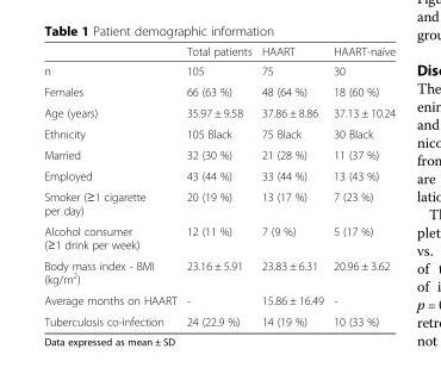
<table><thead><tr><td></td><td>Total patients</td><td>HAART</td><td>HAART-naïve</td></tr></thead><tbody><tr><td>n</td><td>105</td><td>75</td><td>30</td></tr><tr><td>Females</td><td>66 (63 %)</td><td>48 (64 %)</td><td>18 (60 %)</td></tr><tr><td>Age (years)</td><td>35.97 ± 9.58</td><td>37.86 ± 8.86</td><td>37.13 ± 10.24</td></tr><tr><td>Ethnicity</td><td>105 Black</td><td>75 Black</td><td>30 Black</td></tr><tr><td>Married</td><td>32 (30 %)</td><td>21 (28 %)</td><td>11 (37 %)</td></tr><tr><td>Employed</td><td>43 (44 %)</td><td>33 (44 %)</td><td>13 (43 %)</td></tr><tr><td>Smoker (≥1 cigarette per day)</td><td>20 (19 %)</td><td>13 (17 %)</td><td>7 (23 %)</td></tr><tr><td>Alcohol consumer (≥1 drink per week)</td><td>12 (11 %)</td><td>7 (9 %)</td><td>5 (17 %)</td></tr><tr><td>Body mass index - BMI (kg/m<sup>2</sup>)</td><td>23.16 ± 5.91</td><td>23.83 ± 6.31</td><td>20.96 ± 3.62</td></tr><tr><td>Average months on HAART</td><td>-</td><td>15.86 ± 16.49</td><td>-</td></tr><tr><td>Tuberculosis co-infection</td><td>24 (22.9 %)</td><td>14 (19 %)</td><td>10 (33 %)</td></tr></tbody></table>